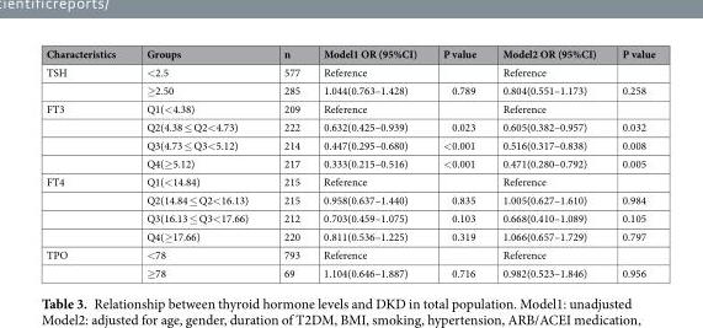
<table><thead><tr><td>Characteristics</td><td>Groups</td><td>n</td><td>Model1 OR (95%CI)</td><td>P value</td><td>Model2 OR (95%CI)</td><td>P value</td></tr></thead><tbody><tr><td rowspan="2">TSH</td><td>&lt;2.5</td><td>577</td><td>Reference</td><td></td><td>Reference</td><td></td></tr><tr><td>≥2.50</td><td>285</td><td>1.044(0.763–1.428)</td><td>0.789</td><td>0.804(0.551–1.173)</td><td>0.258</td></tr><tr><td rowspan="4">FT3</td><td>Q1(&lt;4.38)</td><td>209</td><td>Reference</td><td></td><td>Reference</td><td></td></tr><tr><td>Q2(4.38 ≤ Q2&lt;4.73)</td><td>222</td><td>0.632(0.425–0.939)</td><td>0.023</td><td>0.605(0.382–0.957)</td><td>0.032</td></tr><tr><td>Q3(4.73 ≤ Q3&lt;5.12)</td><td>214</td><td>0.447(0.295–0.680)</td><td>&lt;0.001</td><td>0.516(0.317–0.838)</td><td>0.008</td></tr><tr><td>Q4(≥5.12)</td><td>217</td><td>0.333(0.215–0.516)</td><td>&lt;0.001</td><td>0.471(0.280–0.792)</td><td>0.005</td></tr><tr><td rowspan="4">FT4</td><td>Q1(&lt;14.84)</td><td>215</td><td>Reference</td><td></td><td>Reference</td><td></td></tr><tr><td>Q2(14.84 ≤ Q2&lt;16.13)</td><td>215</td><td>0.958(0.637–1.440)</td><td>0.835</td><td>1.005(0.627–1.610)</td><td>0.984</td></tr><tr><td>Q3(16.13 ≤ Q3&lt;17.66)</td><td>212</td><td>0.703(0.459–1.075)</td><td>0.103</td><td>0.668(0.410–1.089)</td><td>0.105</td></tr><tr><td>Q4(≥17.66)</td><td>220</td><td>0.811(0.536–1.225)</td><td>0.319</td><td>1.066(0.657–1.729)</td><td>0.797</td></tr><tr><td rowspan="2">TPO</td><td>&lt;78</td><td>793</td><td>Reference</td><td></td><td>Reference</td><td></td></tr><tr><td>≥78</td><td>69</td><td>1.104(0.646–1.887)</td><td>0.716</td><td>0.982(0.523–1.846)</td><td>0.956</td></tr></tbody></table>